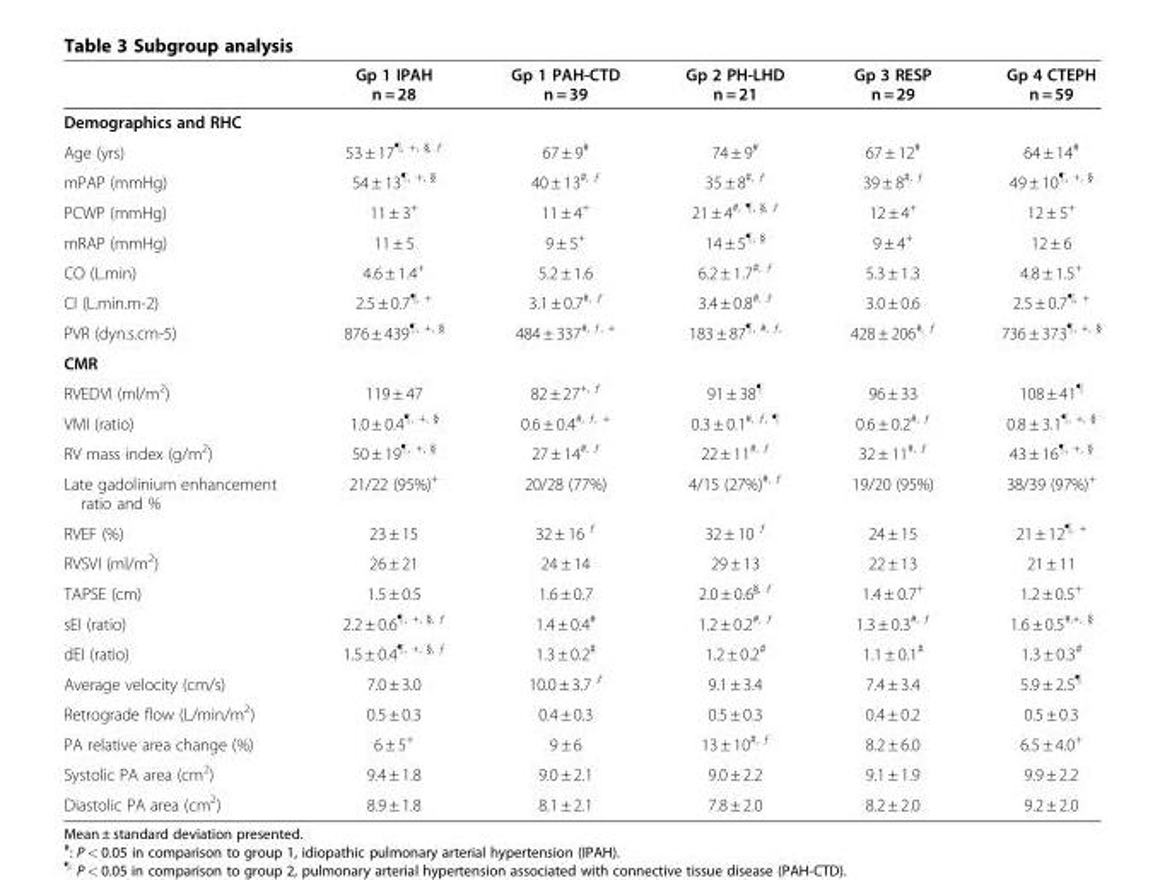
<table><thead><tr><td></td><td>Gp 1 IPAH n = 28</td><td>Gp 1 PAH-CTD n = 39</td><td>Gp 2 PH-LHD n = 21</td><td>Gp 3 RESP n = 29</td><td>Gp 4 CTEPH n = 59</td></tr></thead><tbody><tr><td colspan="6">Demographics and RHC</td></tr><tr><td>Age (yrs)</td><td>53 ± 17<sup>¶, +, §, ƒ</sup></td><td>67 ± 9<sup>#</sup></td><td>74 ± 9<sup>#</sup></td><td>67 ± 12<sup>#</sup></td><td>64 ± 14<sup>#</sup></td></tr><tr><td>mPAP (mmHg)</td><td>54 ± 13<sup>¶, +, §</sup></td><td>40 ± 13<sup>#, ƒ</sup></td><td>35 ± 8<sup>#, ƒ</sup></td><td>39 ± 8<sup>#, ƒ</sup></td><td>49 ± 10<sup>¶, +, §</sup></td></tr><tr><td>PCWP (mmHg)</td><td>11 ± 3<sup>+</sup></td><td>11 ± 4<sup>+</sup></td><td>21 ± 4<sup>#, ¶, §, ƒ</sup></td><td>12 ± 4<sup>+</sup></td><td>12 ± 5<sup>+</sup></td></tr><tr><td>mRAP (mmHg)</td><td>11 ± 5</td><td>9 ± 5<sup>+</sup></td><td>14 ± 5<sup>¶, §</sup></td><td>9 ± 4<sup>+</sup></td><td>12 ± 6</td></tr><tr><td>CO (L.min)</td><td>4.6 ± 1.4<sup>+</sup></td><td>5.2 ± 1.6</td><td>6.2 ± 1.7<sup>#, ƒ</sup></td><td>5.3 ± 1.3</td><td>4.8 ± 1.5<sup>+</sup></td></tr><tr><td>CI (L.min.m-2)</td><td>2.5 ± 0.7<sup>¶, +</sup></td><td>3.1 ± 0.7<sup>#, ƒ</sup></td><td>3.4 ± 0.8<sup>#, ƒ</sup></td><td>3.0 ± 0.6</td><td>2.5 ± 0.7<sup>¶, +</sup></td></tr><tr><td>PVR (dyn.s.cm-5)</td><td>876 ± 439<sup>¶, +, §</sup></td><td>484 ± 337<sup>#, ƒ, +</sup></td><td>183 ± 87<sup>¶, #, ƒ,</sup></td><td>428 ± 206<sup>#, ƒ</sup></td><td>736 ± 373}, +,</td></tr><tr><td colspan="6">CMR</td></tr><tr><td>RVEDVI (ml/m<sup>2</sup>)</td><td>119 ± 47</td><td>82 ± 27<sup>+, ƒ</sup></td><td>91 ± 38<sup>¶</sup></td><td>96 ± 33</td><td>108 ± 41<sup>¶</sup></td></tr><tr><td>VMI (ratio)</td><td>1.0 ± 0.4<sup>¶, +, §</sup></td><td>0.6 ± 0.4<sup>#, ƒ, +</sup></td><td>0.3 ± 0.1<sup>#, ƒ, ¶</sup></td><td>0.6 ± 0.2<sup>#, ƒ</sup></td><td>0.8 ± 3.1<sup>¶, +, §</sup></td></tr><tr><td>RV mass index (g/m<sup>2</sup>)</td><td>50 ± 19<sup>¶, +, §</sup></td><td>27 ± 14<sup>#, ƒ</sup></td><td>22 ± 11<sup>#, ƒ</sup></td><td>32 ± 11<sup>#, ƒ</sup></td><td>43 ± 16<sup>¶, +, §</sup></td></tr><tr><td>Late gadolinium enhancement ratio and %</td><td>21/22 (95%)<sup>+</sup></td><td>20/28 (77%)</td><td>4/15 (27%)<sup>#, ƒ</sup></td><td>19/20 (95%)</td><td>38/39 (97%)<sup>+</sup></td></tr><tr><td>RVEF (%)</td><td>23 ± 15</td><td>32 ± 16 <sup>ƒ</sup></td><td>32 ± 10 <sup>ƒ</sup></td><td>24 ± 15</td><td>21 ± 12<sup>¶, +</sup></td></tr><tr><td>RVSVI (ml/m<sup>2</sup>)</td><td>26 ± 21</td><td>24 ± 14</td><td>29 ± 13</td><td>22 ± 13</td><td>21 ± 11</td></tr><tr><td>TAPSE (cm)</td><td>1.5 ± 0.5</td><td>1.6 ± 0.7</td><td>2.0 ± 0.6<sup>§, ƒ</sup></td><td>1.4 ± 0.7<sup>+</sup></td><td>1.2 ± 0.5<sup>+</sup></td></tr><tr><td>sEI (ratio)</td><td>2.2 ± 0.6<sup>¶, +, §, ƒ</sup></td><td>1.4 ± 0.4<sup>#</sup></td><td>1.2 ± 0.2<sup>#, ƒ</sup></td><td>1.3 ± 0.3<sup>#, ƒ</sup></td><td>1.6 ± 0.5<sup>#,+, §</sup></td></tr><tr><td>dEI (ratio)</td><td>1.5 ± 0.4<sup>¶, +, §, ƒ</sup></td><td>1.3 ± 0.2<sup>#</sup></td><td>1.2 ± 0.2<sup>#</sup></td><td>1.1 ± 0.1<sup>#</sup></td><td>1.3 ± 0.3<sup>#</sup></td></tr><tr><td>Average velocity (cm/s)</td><td>7.0 ± 3.0</td><td>10.0 ± 3.7 <sup>ƒ</sup></td><td>9.1 ± 3.4</td><td>7.4 ± 3.4</td><td>5.9 ± 2.5<sup>¶</sup></td></tr><tr><td>Retrograde flow (L/min/m<sup>2</sup>)</td><td>0.5 ± 0.3</td><td>0.4 ± 0.3</td><td>0.5 ± 0.3</td><td>0.4 ± 0.2</td><td>0.5 ± 0.3</td></tr><tr><td>PA relative area change (%)</td><td>6 ± 5<sup>+</sup></td><td>9 ± 6</td><td>13 ± 10<sup>#, ƒ</sup></td><td>8.2 ± 6.0</td><td>6.5 ± 4.0<sup>+</sup></td></tr><tr><td>Systolic PA area (cm<sup>2</sup>)</td><td>9.4 ± 1.8</td><td>9.0 ± 2.1</td><td>9.0 ± 2.2</td><td>9.1 ± 1.9</td><td>9.9 ± 2.2</td></tr><tr><td>Diastolic PA area (cm<sup>2</sup>)</td><td>8.9 ± 1.8</td><td>8.1 ± 2.1</td><td>7.8 ± 2.0</td><td>8.2 ± 2.0</td><td>9.2 ± 2.0</td></tr></tbody></table>